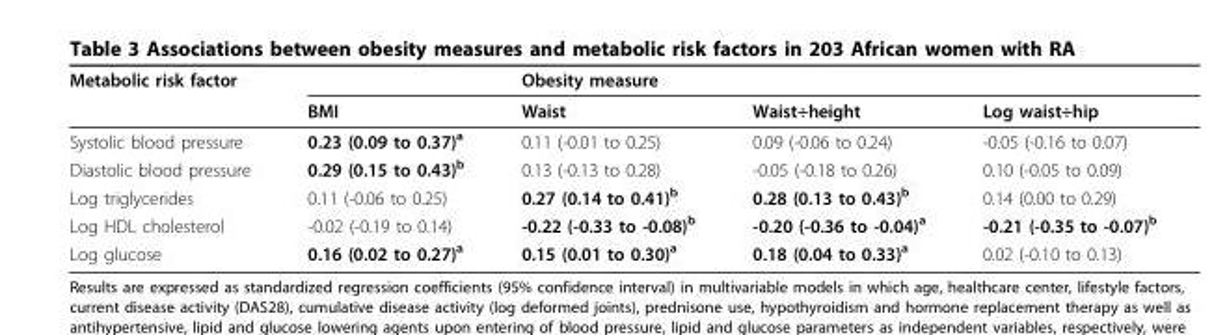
<table><thead><tr><td rowspan="2">Metabolic risk factor</td><td rowspan="2">BMI</td><td rowspan="2">Obesity measure Waist</td><td rowspan="2">Waist÷height</td><td rowspan="2">Log waist÷hip</td></tr><tr></tr></thead><tbody><tr><td>Systolic blood pressure</td><td>0.23 (0.09 to 0.37)<sup>a</sup></td><td>0.11 (-0.01 to 0.25)</td><td>0.09 (-0.06 to 0.24)</td><td>-0.05 (-0.16 to 0.07)</td></tr><tr><td>Diastolic blood pressure</td><td>0.29 (0.15 to 0.43)<sup>b</sup></td><td>0.13 (-0.13 to 0.28)</td><td>-0.05 (-0.18 to 0.26)</td><td>0.10 (-0.05 to 0.09)</td></tr><tr><td>Log triglycerides</td><td>0.11 (-0.06 to 0.25)</td><td>0.27 (0.14 to 0.41)<sup>b</sup></td><td>0.28 (0.13 to 0.43)<sup>b</sup></td><td>0.14 (0.00 to 0.29)</td></tr><tr><td>Log HDL cholesterol</td><td>-0.02 (-0.19 to 0.14)</td><td>-0.22 (-0.33 to -0.08)<sup>b</sup></td><td>-0.20 (-0.36 to -0.04)<sup>a</sup></td><td>-0.21 (-0.35 to -0.07)<sup>b</sup></td></tr><tr><td>Log glucose</td><td>0.16 (0.02 to 0.27)<sup>a</sup></td><td>0.15 (0.01 to 0.30)<sup>a</sup></td><td>0.18 (0.04 to 0.33)<sup>a</sup></td><td>0.02 (-0.10 to 0.13)</td></tr></tbody></table>